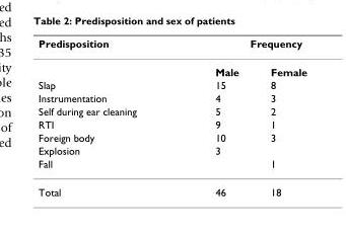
<table><thead><tr><td rowspan="2">Predisposition</td><td colspan="2">Frequency</td></tr><tr><td>Male</td><td>Female</td></tr></thead><tbody><tr><td>Slap</td><td>15</td><td>8</td></tr><tr><td>Instrumentation</td><td>4</td><td>3</td></tr><tr><td>Self during ear cleaning</td><td>5</td><td>2</td></tr><tr><td>RTI</td><td>9</td><td>1</td></tr><tr><td>Foreign body</td><td>10</td><td>3</td></tr><tr><td>Explosion</td><td>3</td><td></td></tr><tr><td>Fall</td><td></td><td>1</td></tr><tr><td>Total</td><td>46</td><td>18</td></tr></tbody></table>